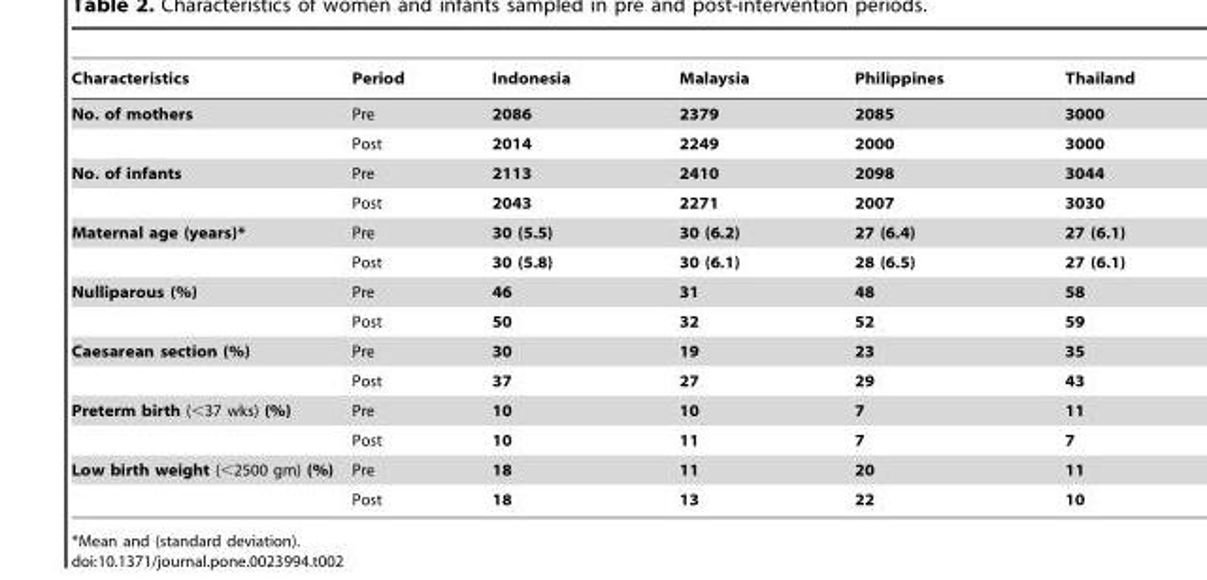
<table><thead><tr><td>Characteristics</td><td>Period</td><td>Indonesia</td><td>Malaysia</td><td>Philippines</td><td>Thailand</td></tr></thead><tbody><tr><td rowspan="2">No. of mothers</td><td>Pre</td><td>2086</td><td>2379</td><td>2085</td><td>3000</td></tr><tr><td>Post</td><td>2014</td><td>2249</td><td>2000</td><td>3000</td></tr><tr><td rowspan="2">No. of infants</td><td>Pre</td><td>2113</td><td>2410</td><td>2098</td><td>3044</td></tr><tr><td>Post</td><td>2043</td><td>2271</td><td>2007</td><td>3030</td></tr><tr><td rowspan="2">Maternal age (years)*</td><td>Pre</td><td>30 (5.5)</td><td>30 (6.2)</td><td>27 (6.4)</td><td>27 (6.1)</td></tr><tr><td>Post</td><td>30 (5.8)</td><td>30 (6.1)</td><td>28 (6.5)</td><td>27 (6.1)</td></tr><tr><td rowspan="2">Nulliparous (%)</td><td>Pre</td><td>46</td><td>31</td><td>48</td><td>58</td></tr><tr><td>Post</td><td>50</td><td>32</td><td>52</td><td>59</td></tr><tr><td rowspan="2">Caesarean section (%)</td><td>Pre</td><td>30</td><td>19</td><td>23</td><td>35</td></tr><tr><td>Post</td><td>37</td><td>27</td><td>29</td><td>43</td></tr><tr><td rowspan="2">Preterm birth (&lt;37 wks) (%)</td><td>Pre</td><td>10</td><td>10</td><td>7</td><td>11</td></tr><tr><td>Post</td><td>10</td><td>11</td><td>7</td><td>7</td></tr><tr><td rowspan="2">Low birth weight (&lt;2500 gm) (%)</td><td>Pre</td><td>18</td><td>11</td><td>20</td><td>11</td></tr><tr><td>Post</td><td>18</td><td>13</td><td>22</td><td>10</td></tr></tbody></table>